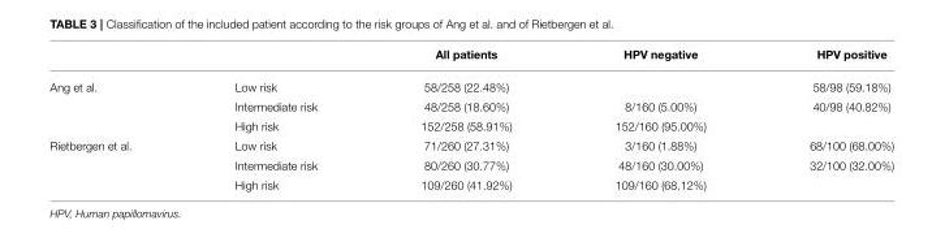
<table><thead><tr><td></td><td></td><td>All patients</td><td>HPV negative</td><td>HPV positive</td></tr></thead><tbody><tr><td rowspan="3">Ang et al.</td><td>Low risk</td><td>58/258 (22.48%)</td><td></td><td>58/98 (59.18%)</td></tr><tr><td>Intermediate risk</td><td>48/258 (18.60%)</td><td>8/160 (5.00%)</td><td>40/98 (40.82%)</td></tr><tr><td>High risk</td><td>152/258 (58.91%)</td><td>152/160 (95.00%)</td><td></td></tr><tr><td rowspan="3">Rietbergen et al.</td><td>Low risk</td><td>71/260 (27.31%)</td><td>3/160 (1.88%)</td><td>68/100 (68.00%)</td></tr><tr><td>Intermediate risk</td><td>80/260 (30.77%)</td><td>48/160 (30.00%)</td><td>32/100 (32.00%)</td></tr><tr><td>High risk</td><td>109/260 (41.92%)</td><td>109/160 (68.12%)</td><td></td></tr></tbody></table>